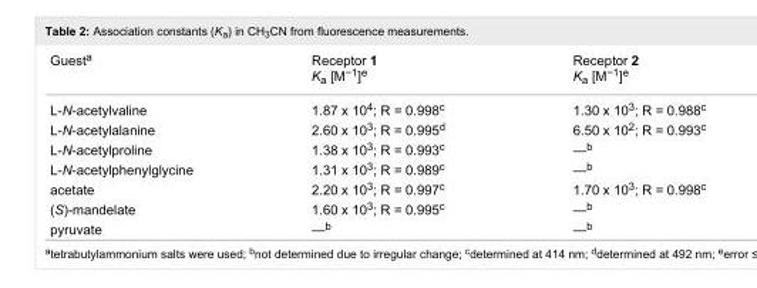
<table><tbody><tr><td>Guest<sup>a</sup></td><td>Receptor 1 K<sub>a</sub> [M<sup>−1</sup>]<sup>e</sup></td><td>Receptor 2 K<sub>a</sub> [M<sup>−1</sup>]<sup>e</sup></td></tr><tr><td>L-N-acetylvaline</td><td>1.87 x 10<sup>4</sup>; R = 0.998<sup>c</sup></td><td>1.30 x 10<sup>3</sup>; R = 0.988<sup>c</sup></td></tr><tr><td>L-N-acetylalanine</td><td>2.60 x 10<sup>3</sup>; R = 0.995<sup>d</sup></td><td>6.50 x 10<sup>2</sup>; R = 0.993<sup>c</sup></td></tr><tr><td>L-N-acetylproline</td><td>1.38 x 10<sup>3</sup>; R = 0.993<sup>c</sup></td><td>—<sup>b</sup></td></tr><tr><td>L-N-acetylphenylglycine</td><td>1.31 x 10<sup>3</sup>; R = 0.989<sup>c</sup></td><td>—<sup>b</sup></td></tr><tr><td>acetate</td><td>2.20 x 10<sup>3</sup>; R = 0.997<sup>c</sup></td><td>1.70 x 10<sup>3</sup>; R = 0.998<sup>c</sup></td></tr><tr><td>(S)-mandelate</td><td>1.60 x 10<sup>3</sup>; R = 0.995<sup>c</sup></td><td>—<sup>b</sup></td></tr><tr><td>pyruvate</td><td>—<sup>b</sup></td><td>—<sup>b</sup></td></tr></tbody></table>